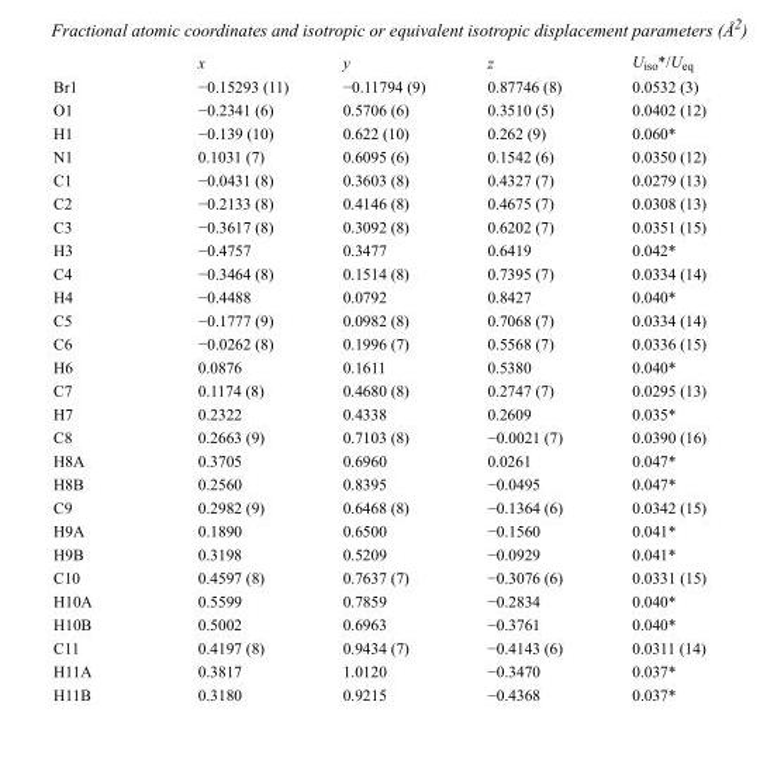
<table><thead><tr><td></td><td>x</td><td>y</td><td>z</td><td>U<sub>iso</sub>*/U<sub>eq</sub></td></tr></thead><tbody><tr><td>Br1</td><td>−0.15293 (11)</td><td>−0.11794 (9)</td><td>0.87746 (8)</td><td>0.0532 (3)</td></tr><tr><td>O1</td><td>−0.2341 (6)</td><td>0.5706 (6)</td><td>0.3510 (5)</td><td>0.0402 (12)</td></tr><tr><td>H1</td><td>−0.139 (10)</td><td>0.622 (10)</td><td>0.262 (9)</td><td>0.060*</td></tr><tr><td>N1</td><td>0.1031 (7)</td><td>0.6095 (6)</td><td>0.1542 (6)</td><td>0.0350 (12)</td></tr><tr><td>C1</td><td>−0.0431 (8)</td><td>0.3603 (8)</td><td>0.4327 (7)</td><td>0.0279 (13)</td></tr><tr><td>C2</td><td>−0.2133 (8)</td><td>0.4146 (8)</td><td>0.4675 (7)</td><td>0.0308 (13)</td></tr><tr><td>C3</td><td>−0.3617 (8)</td><td>0.3092 (8)</td><td>0.6202 (7)</td><td>0.0351 (15)</td></tr><tr><td>H3</td><td>−0.4757</td><td>0.3477</td><td>0.6419</td><td>0.042*</td></tr><tr><td>C4</td><td>−0.3464 (8)</td><td>0.1514 (8)</td><td>0.7395 (7)</td><td>0.0334 (14)</td></tr><tr><td>H4</td><td>−0.4488</td><td>0.0792</td><td>0.8427</td><td>0.040*</td></tr><tr><td>C5</td><td>−0.1777 (9)</td><td>0.0982 (8)</td><td>0.7068 (7)</td><td>0.0334 (14)</td></tr><tr><td>C6</td><td>−0.0262 (8)</td><td>0.1996 (7)</td><td>0.5568 (7)</td><td>0.0336 (15)</td></tr><tr><td>H6</td><td>0.0876</td><td>0.1611</td><td>0.5380</td><td>0.040*</td></tr><tr><td>C7</td><td>0.1174 (8)</td><td>0.4680 (8)</td><td>0.2747 (7)</td><td>0.0295 (13)</td></tr><tr><td>H7</td><td>0.2322</td><td>0.4338</td><td>0.2609</td><td>0.035*</td></tr><tr><td>C8</td><td>0.2663 (9)</td><td>0.7103 (8)</td><td>−0.0021 (7)</td><td>0.0390 (16)</td></tr><tr><td>H8A</td><td>0.3705</td><td>0.6960</td><td>0.0261</td><td>0.047*</td></tr><tr><td>H8B</td><td>0.2560</td><td>0.8395</td><td>−0.0495</td><td>0.047*</td></tr><tr><td>C9</td><td>0.2982 (9)</td><td>0.6468 (8)</td><td>−0.1364 (6)</td><td>0.0342 (15)</td></tr><tr><td>H9A</td><td>0.1890</td><td>0.6500</td><td>−0.1560</td><td>0.041*</td></tr><tr><td>H9B</td><td>0.3198</td><td>0.5209</td><td>−0.0929</td><td>0.041*</td></tr><tr><td>C10</td><td>0.4597 (8)</td><td>0.7637 (7)</td><td>−0.3076 (6)</td><td>0.0331 (15)</td></tr><tr><td>H10A</td><td>0.5599</td><td>0.7859</td><td>−0.2834</td><td>0.040*</td></tr><tr><td>H10B</td><td>0.5002</td><td>0.6963</td><td>−0.3761</td><td>0.040*</td></tr><tr><td>C11</td><td>0.4197 (8)</td><td>0.9434 (7)</td><td>−0.4143 (6)</td><td>0.0311 (14)</td></tr><tr><td>H11A</td><td>0.3817</td><td>1.0120</td><td>−0.3470</td><td>0.037*</td></tr><tr><td>H11B</td><td>0.3180</td><td>0.9215</td><td>−0.4368</td><td>0.037*</td></tr></tbody></table>